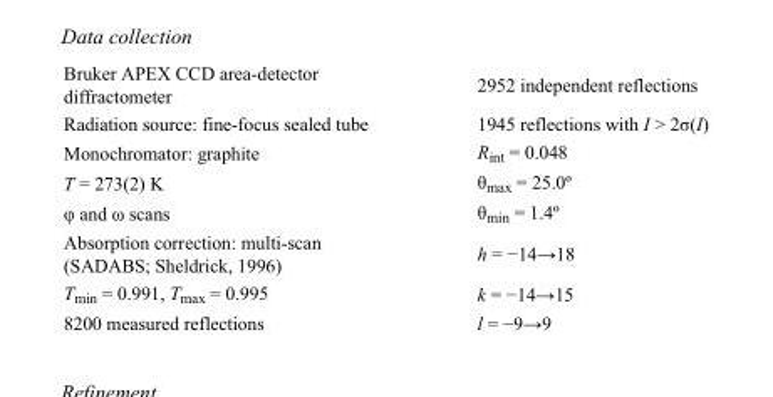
<table><tbody><tr><td>Bruker APEX CCD area-detector diffractometer</td><td>2952 independent reflections</td></tr><tr><td>Radiation source: fine-focus sealed tube</td><td>1945 reflections with I &gt; 2σ(I)</td></tr><tr><td>Monochromator: graphite</td><td>R<sub>int</sub> = 0.048</td></tr><tr><td>T = 273(2) K</td><td>θ<sub>max</sub> = 25.0º</td></tr><tr><td>φ and ω scans</td><td>θ<sub>min</sub> = 1.4º</td></tr><tr><td>Absorption correction: multi-scan (SADABS; Sheldrick, 1996)</td><td>h = −14→18</td></tr><tr><td>T<sub>min</sub> = 0.991, T<sub>max</sub> = 0.995</td><td>k = −14→15</td></tr><tr><td>8200 measured reflections</td><td>l = −9→9</td></tr></tbody></table>